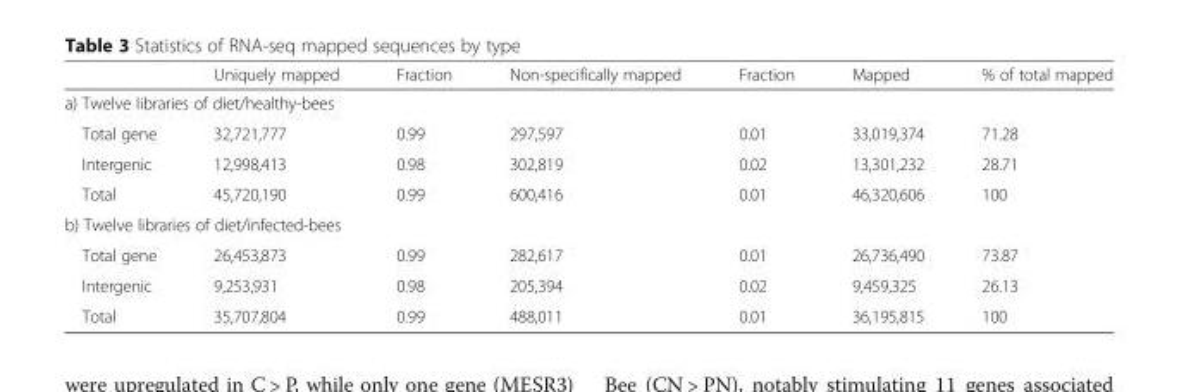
<table><thead><tr><td></td><td>Uniquely mapped</td><td>Fraction</td><td>Non-specifically mapped</td><td>Fraction</td><td>Mapped</td><td>% of total mapped</td></tr></thead><tbody><tr><td colspan="7">a) Twelve libraries of diet/healthy-bees</td></tr><tr><td>Total gene</td><td>32,721,777</td><td>0.99</td><td>297,597</td><td>0.01</td><td>33,019,374</td><td>71.28</td></tr><tr><td>Intergenic</td><td>12,998,413</td><td>0.98</td><td>302,819</td><td>0.02</td><td>13,301,232</td><td>28.71</td></tr><tr><td>Total</td><td>45,720,190</td><td>0.99</td><td>600,416</td><td>0.01</td><td>46,320,606</td><td>100</td></tr><tr><td colspan="7">b) Twelve libraries of diet/infected-bees</td></tr><tr><td>Total gene</td><td>26,453,873</td><td>0.99</td><td>282,617</td><td>0.01</td><td>26,736,490</td><td>73.87</td></tr><tr><td>Intergenic</td><td>9,253,931</td><td>0.98</td><td>205,394</td><td>0.02</td><td>9,459,325</td><td>26.13</td></tr><tr><td>Total</td><td>35,707,804</td><td>0.99</td><td>488,011</td><td>0.01</td><td>36,195,815</td><td>100</td></tr></tbody></table>